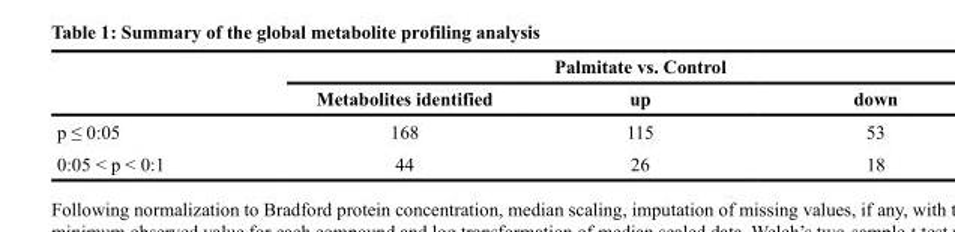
<table><thead><tr><td rowspan="2"></td><td colspan="3">Palmitate vs. Control</td></tr><tr><td>Metabolites identified</td><td>up</td><td>down</td></tr></thead><tbody><tr><td>p ≤ 0:05</td><td>168</td><td>115</td><td>53</td></tr><tr><td>0:05 &lt; p &lt; 0:1</td><td>44</td><td>26</td><td>18</td></tr></tbody></table>